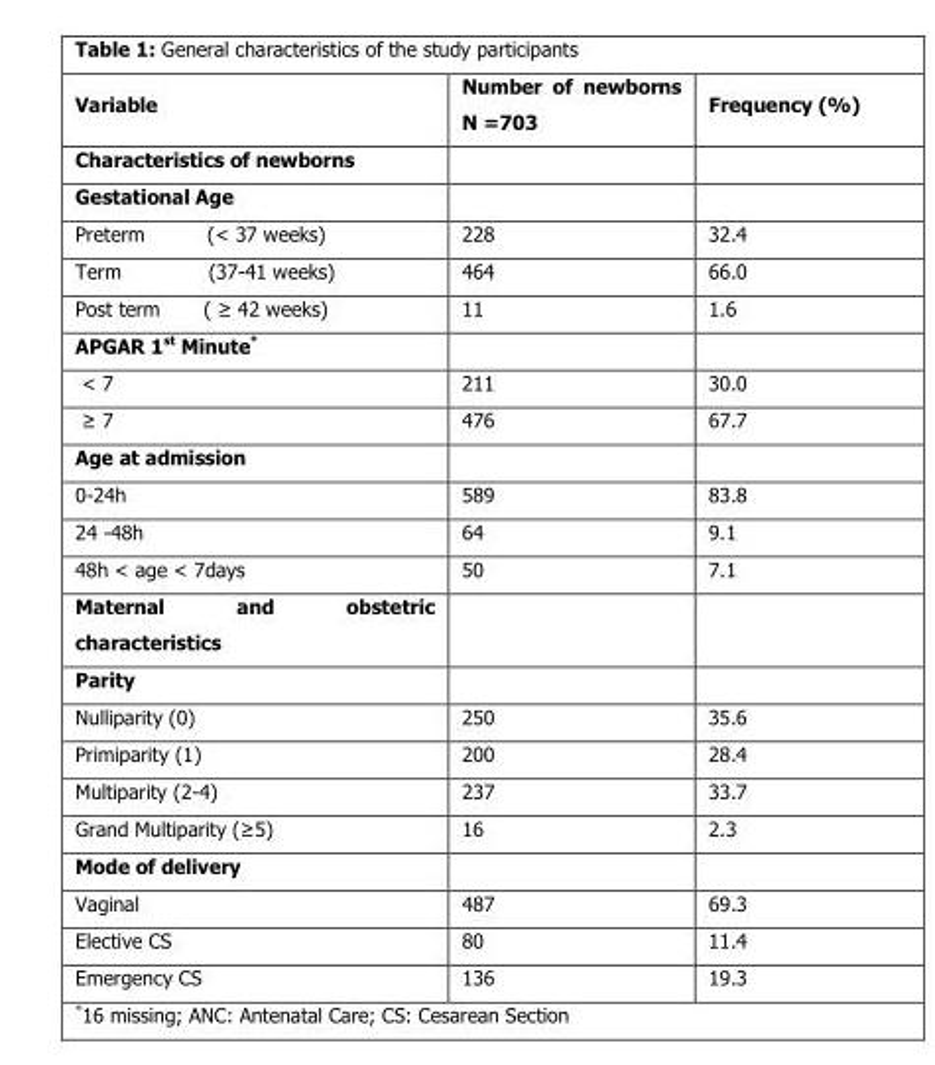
<table><thead><tr><td>Variable</td><td>Number of newborns N =703</td><td>Frequency (%)</td></tr></thead><tbody><tr><td colspan="3">Characteristics of newborns</td></tr><tr><td colspan="3">Gestational Age</td></tr><tr><td>Preterm (&lt; 37 weeks)</td><td>228</td><td>32.4</td></tr><tr><td>Term (37-41 weeks)</td><td>464</td><td>66.0</td></tr><tr><td>Post term ( ≥ 42 weeks)</td><td>11</td><td>1.6</td></tr><tr><td colspan="3">APGAR 1<sup>st</sup> Minute*</td></tr><tr><td>&lt; 7</td><td>211</td><td>30.0</td></tr><tr><td>≥ 7</td><td>476</td><td>67.7</td></tr><tr><td colspan="3">Age at admission</td></tr><tr><td>0-24h</td><td>589</td><td>83.8</td></tr><tr><td>24 -48h</td><td>64</td><td>9.1</td></tr><tr><td>48h &lt; age &lt; 7days</td><td>50</td><td>7.1</td></tr><tr><td colspan="3">Maternal and obstetric characteristics</td></tr><tr><td colspan="3">Parity</td></tr><tr><td>Nulliparity (0)</td><td>250</td><td>35.6</td></tr><tr><td>Primiparity (1)</td><td>200</td><td>28.4</td></tr><tr><td>Multiparity (2-4)</td><td>237</td><td>33.7</td></tr><tr><td>Grand Multiparity (≥5)</td><td>16</td><td>2.3</td></tr><tr><td colspan="3">Mode of delivery</td></tr><tr><td>Vaginal</td><td>487</td><td>69.3</td></tr><tr><td>Elective CS</td><td>80</td><td>11.4</td></tr><tr><td>Emergency CS</td><td>136</td><td>19.3</td></tr></tbody></table>